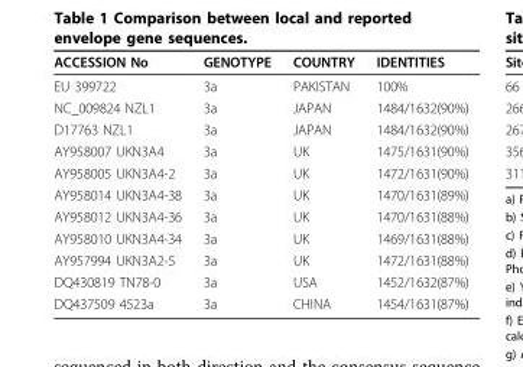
<table><thead><tr><td>ACCESSION No</td><td>GENOTYPE</td><td>COUNTRY</td><td>IDENTITIES</td></tr></thead><tbody><tr><td>EU 399722</td><td>3a</td><td>PAKISTAN</td><td>100%</td></tr><tr><td>NC_009824 NZL1</td><td>3a</td><td>JAPAN</td><td>1484/1632(90%)</td></tr><tr><td>D17763 NZL1</td><td>3a</td><td>JAPAN</td><td>1484/1632(90%)</td></tr><tr><td>AY958007 UKN3A4</td><td>3a</td><td>UK</td><td>1475/1631(90%)</td></tr><tr><td>AY958005 UKN3A4-2</td><td>3a</td><td>UK</td><td>1472/1631(90%)</td></tr><tr><td>AY958014 UKN3A4-38</td><td>3a</td><td>UK</td><td>1470/1631(89%)</td></tr><tr><td>AY958012 UKN3A4-36</td><td>3a</td><td>UK</td><td>1470/1631(88%)</td></tr><tr><td>AY958010 UKN3A4-34</td><td>3a</td><td>UK</td><td>1469/1631(88%)</td></tr><tr><td>AY957994 UKN3A2-5</td><td>3a</td><td>UK</td><td>1472/1631(88%)</td></tr><tr><td>DQ430819 TN78-0</td><td>3a</td><td>USA</td><td>1452/1632(87%)</td></tr><tr><td>DQ437509 4523a</td><td>3a</td><td>CHINA</td><td>1454/1631(87%)</td></tr></tbody></table>